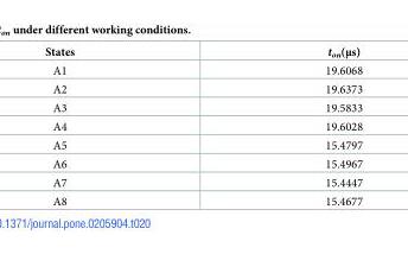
<table><thead><tr><td>States</td><td>t<sub>on</sub>(μs)</td></tr></thead><tbody><tr><td>A1</td><td>19.6068</td></tr><tr><td>A2</td><td>19.6373</td></tr><tr><td>A3</td><td>19.5833</td></tr><tr><td>A4</td><td>19.6028</td></tr><tr><td>A5</td><td>15.4797</td></tr><tr><td>A6</td><td>15.4967</td></tr><tr><td>A7</td><td>15.4447</td></tr><tr><td>A8</td><td>15.4677</td></tr></tbody></table>